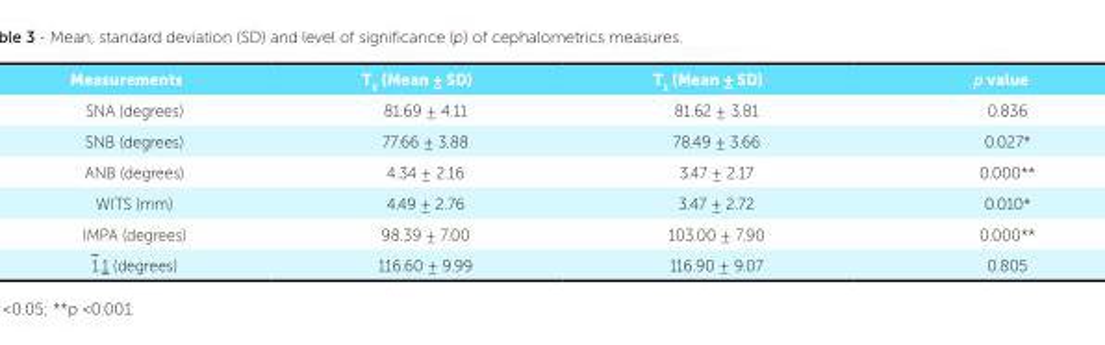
<table><tbody><tr><td>Measurements</td><td>T<sub>0</sub> (Mean ± SD)</td><td>T<sub>1</sub> (Mean ± SD)</td><td>p value</td></tr><tr><td>SNA (degrees)</td><td>81.69 ± 4.11</td><td>81.62 ± 3.81</td><td>0.836</td></tr><tr><td>SNB (degrees)</td><td>77.66 ± 3.88</td><td>78.49 ± 3.66</td><td>0.027*</td></tr><tr><td>ANB (degrees)</td><td>4.34 ± 2.16</td><td>3.47 ± 2.17</td><td>0.000**</td></tr><tr><td>WITS (mm)</td><td>4.49 ± 2.76</td><td>3.47 ± 2.72</td><td>0.010*</td></tr><tr><td>IMPA (degrees)</td><td>98.39 ± 7.00</td><td>103.00 ± 7.90</td><td>0.000**</td></tr><tr><td>1.1 (degrees)</td><td>116.60 ± 9.99</td><td>116.90 ± 9.07</td><td>0.805</td></tr></tbody></table>